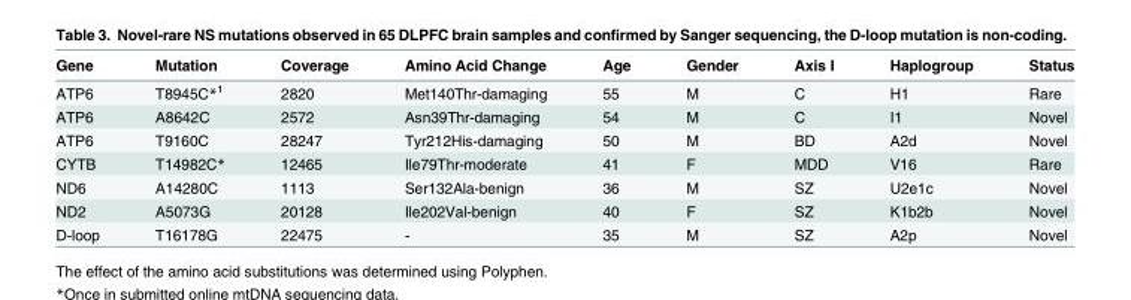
<table><thead><tr><td>Gene</td><td>Mutation</td><td>Coverage</td><td>Amino Acid Change</td><td>Age</td><td>Gender</td><td>Axis I</td><td>Haplogroup</td><td>Status</td></tr></thead><tbody><tr><td>ATP6</td><td>T8945C*<sup>1</sup></td><td>2820</td><td>Met140Thr-damaging</td><td>55</td><td>M</td><td>C</td><td>H1</td><td>Rare</td></tr><tr><td>ATP6</td><td>A8642C</td><td>2572</td><td>Asn39Thr-damaging</td><td>54</td><td>M</td><td>C</td><td>I1</td><td>Novel</td></tr><tr><td>ATP6</td><td>T9160C</td><td>28247</td><td>Tyr212His-damaging</td><td>50</td><td>M</td><td>BD</td><td>A2d</td><td>Novel</td></tr><tr><td>CYTB</td><td>T14982C*</td><td>12465</td><td>Ile79Thr-moderate</td><td>41</td><td>F</td><td>MDD</td><td>V16</td><td>Rare</td></tr><tr><td>ND6</td><td>A14280C</td><td>1113</td><td>Ser132Ala-benign</td><td>36</td><td>M</td><td>SZ</td><td>U2e1c</td><td>Novel</td></tr><tr><td>ND2</td><td>A5073G</td><td>20128</td><td>Ile202Val-benign</td><td>40</td><td>F</td><td>SZ</td><td>K1b2b</td><td>Novel</td></tr><tr><td>D-loop</td><td>T16178G</td><td>22475</td><td>-</td><td>35</td><td>M</td><td>SZ</td><td>A2p</td><td>Novel</td></tr></tbody></table>